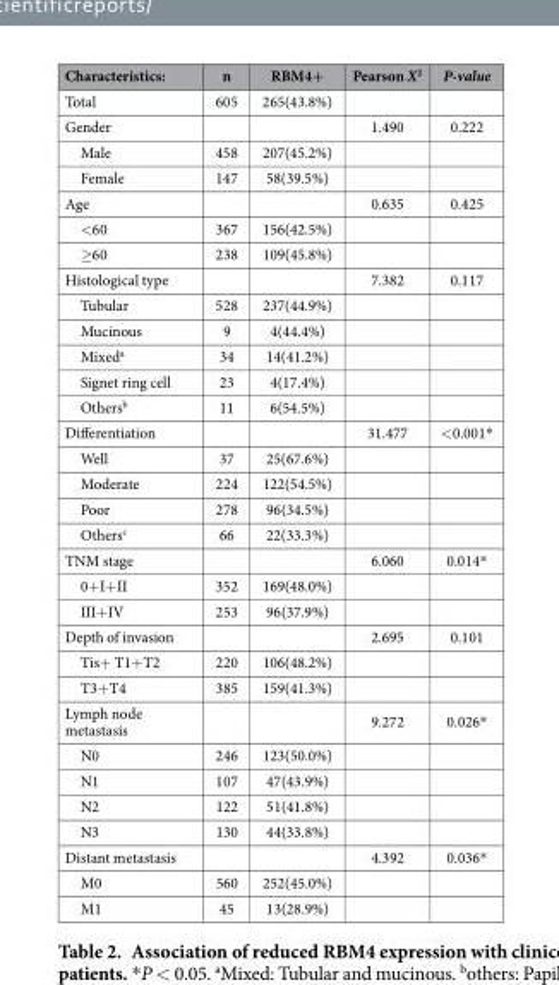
<table><thead><tr><td>Characteristics:</td><td>n</td><td>RBM4+</td><td>Pearson X<sup>2</sup></td><td>P-value</td></tr></thead><tbody><tr><td>Total</td><td>605</td><td>265(43.8%)</td><td></td><td></td></tr><tr><td>Gender</td><td></td><td></td><td>1.490</td><td>0.222</td></tr><tr><td>Male</td><td>458</td><td>207(45.2%)</td><td></td><td></td></tr><tr><td>Female</td><td>147</td><td>58(39.5%)</td><td></td><td></td></tr><tr><td>Age</td><td></td><td></td><td>0.635</td><td>0.425</td></tr><tr><td>&lt; 60</td><td>367</td><td>156(42.5%)</td><td></td><td></td></tr><tr><td>≥ 60</td><td>238</td><td>109(45.8%)</td><td></td><td></td></tr><tr><td>Histological type</td><td></td><td></td><td>7.382</td><td>0.117</td></tr><tr><td>Tubular</td><td>528</td><td>237(44.9%)</td><td></td><td></td></tr><tr><td>Mucinous</td><td>9</td><td>4(44.4%)</td><td></td><td></td></tr><tr><td>Mixed<sup>a</sup></td><td>34</td><td>14(41.2%)</td><td></td><td></td></tr><tr><td>Signet ring cell</td><td>23</td><td>4(17.4%)</td><td></td><td></td></tr><tr><td>Others<sup>b</sup></td><td>11</td><td>6(54.5%)</td><td></td><td></td></tr><tr><td>Differentiation</td><td></td><td></td><td>31.477</td><td>&lt; 0.001*</td></tr><tr><td>Well</td><td>37</td><td>25(67.6%)</td><td></td><td></td></tr><tr><td>Moderate</td><td>224</td><td>122(54.5%)</td><td></td><td></td></tr><tr><td>Poor</td><td>278</td><td>96(34.5%)</td><td></td><td></td></tr><tr><td>Others<sup>c</sup></td><td>66</td><td>22(33.3%)</td><td></td><td></td></tr><tr><td>TNM stage</td><td></td><td></td><td>6.060</td><td>0.014*</td></tr><tr><td>0+ I+ II</td><td>352</td><td>169(48.0%)</td><td></td><td></td></tr><tr><td>III+ IV</td><td>253</td><td>96(37.9%)</td><td></td><td></td></tr><tr><td>Depth of invasion</td><td></td><td></td><td>2.695</td><td>0.101</td></tr><tr><td>Tis+ T1+ T2</td><td>220</td><td>106(48.2%)</td><td></td><td></td></tr><tr><td>T3+ T4</td><td>385</td><td>159(41.3%)</td><td></td><td></td></tr><tr><td>Lymph node metastasis</td><td></td><td></td><td>9.272</td><td>0.026*</td></tr><tr><td>N0</td><td>246</td><td>123(50.0%)</td><td></td><td></td></tr><tr><td>N1</td><td>107</td><td>47(43.9%)</td><td></td><td></td></tr><tr><td>N2</td><td>122</td><td>51(41.8%)</td><td></td><td></td></tr><tr><td>N3</td><td>130</td><td>44(33.8%)</td><td></td><td></td></tr><tr><td>Distant metastasis</td><td></td><td></td><td>4.392</td><td>0.036*</td></tr><tr><td>M0</td><td>560</td><td>252(45.0%)</td><td></td><td></td></tr><tr><td>M1</td><td>45</td><td>13(28.9%)</td><td></td><td></td></tr></tbody></table>